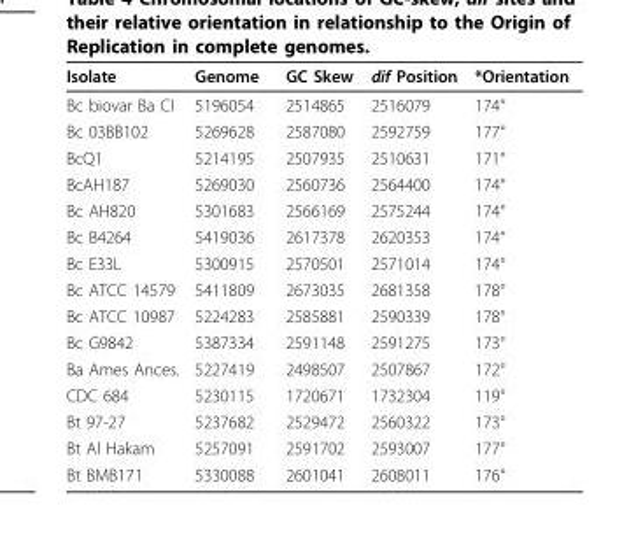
<table><thead><tr><td>Isolate</td><td>Genome</td><td>GC Skew</td><td>dif Position</td><td>*Orientation</td></tr></thead><tbody><tr><td>Bc biovar Ba CI</td><td>5196054</td><td>2514865</td><td>2516079</td><td>174°</td></tr><tr><td>Bc 03BB102</td><td>5269628</td><td>2587080</td><td>2592759</td><td>177°</td></tr><tr><td>BcQ1</td><td>5214195</td><td>2507935</td><td>2510631</td><td>171°</td></tr><tr><td>BcAH187</td><td>5269030</td><td>2560736</td><td>2564400</td><td>174°</td></tr><tr><td>Bc AH820</td><td>5301683</td><td>2566169</td><td>2575244</td><td>174°</td></tr><tr><td>Bc B4264</td><td>5419036</td><td>2617378</td><td>2620353</td><td>174°</td></tr><tr><td>Bc E33L</td><td>5300915</td><td>2570501</td><td>2571014</td><td>174°</td></tr><tr><td>Bc ATCC 14579</td><td>5411809</td><td>2673035</td><td>2681358</td><td>178°</td></tr><tr><td>Bc ATCC 10987</td><td>5224283</td><td>2585881</td><td>2590339</td><td>178°</td></tr><tr><td>Bc G9842</td><td>5387334</td><td>2591148</td><td>2591275</td><td>173°</td></tr><tr><td>Ba Ames Ances.</td><td>5227419</td><td>2498507</td><td>2507867</td><td>172°</td></tr><tr><td>CDC 684</td><td>5230115</td><td>1720671</td><td>1732304</td><td>119°</td></tr><tr><td>Bt 97-27</td><td>5237682</td><td>2529472</td><td>2560322</td><td>173°</td></tr><tr><td>Bt Al Hakam</td><td>5257091</td><td>2591702</td><td>2593007</td><td>177°</td></tr><tr><td>Bt BMB171</td><td>5330088</td><td>2601041</td><td>2608011</td><td>176°</td></tr></tbody></table>